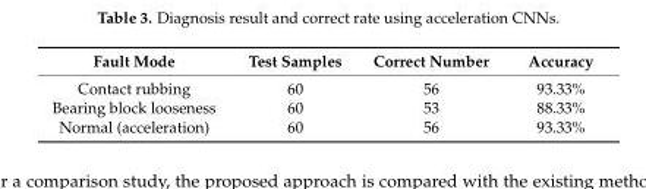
<table><thead><tr><td>Fault Mode</td><td>Test Samples</td><td>Correct Number</td><td>Accuracy</td></tr></thead><tbody><tr><td>Contact rubbing</td><td>60</td><td>56</td><td>93.33%</td></tr><tr><td>Bearing block looseness</td><td>60</td><td>53</td><td>88.33%</td></tr><tr><td>Normal (acceleration)</td><td>60</td><td>56</td><td>93.33%</td></tr></tbody></table>